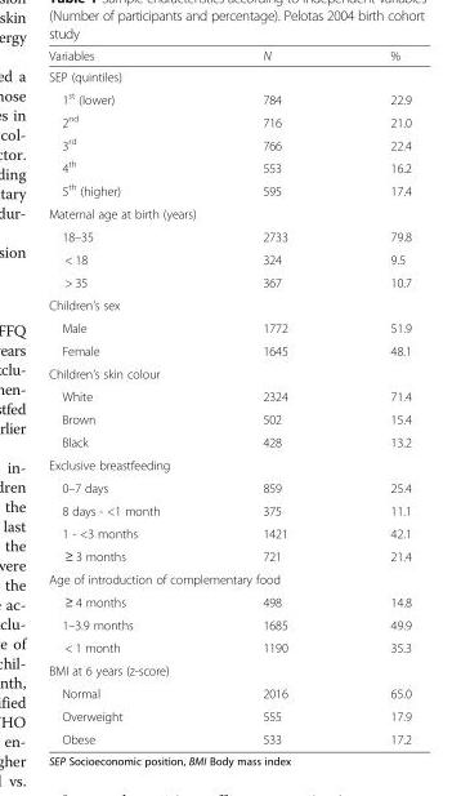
<table><thead><tr><td>Variables</td><td>N</td><td>%</td></tr></thead><tbody><tr><td colspan="3">SEP (quintiles)</td></tr><tr><td>1<sup>st</sup> (lower)</td><td>784</td><td>22.9</td></tr><tr><td>2<sup>nd</sup></td><td>716</td><td>21.0</td></tr><tr><td>3<sup>rd</sup></td><td>766</td><td>22.4</td></tr><tr><td>4<sup>th</sup></td><td>553</td><td>16.2</td></tr><tr><td>5<sup>th</sup> (higher)</td><td>595</td><td>17.4</td></tr><tr><td colspan="3">Maternal age at birth (years)</td></tr><tr><td>18–35</td><td>2733</td><td>79.8</td></tr><tr><td>&lt; 18</td><td>324</td><td>9.5</td></tr><tr><td>&gt; 35</td><td>367</td><td>10.7</td></tr><tr><td colspan="3">Children’s sex</td></tr><tr><td>Male</td><td>1772</td><td>51.9</td></tr><tr><td>Female</td><td>1645</td><td>48.1</td></tr><tr><td colspan="3">Children’s skin colour</td></tr><tr><td>White</td><td>2324</td><td>71.4</td></tr><tr><td>Brown</td><td>502</td><td>15.4</td></tr><tr><td>Black</td><td>428</td><td>13.2</td></tr><tr><td colspan="3">Exclusive breastfeeding</td></tr><tr><td>0–7 days</td><td>859</td><td>25.4</td></tr><tr><td>8 days - &lt;1 month</td><td>375</td><td>11.1</td></tr><tr><td>1 - &lt;3 months</td><td>1421</td><td>42.1</td></tr><tr><td>≥ 3 months</td><td>721</td><td>21.4</td></tr><tr><td colspan="3">Age of introduction of complementary food</td></tr><tr><td>≥ 4 months</td><td>498</td><td>14.8</td></tr><tr><td>1–3.9 months</td><td>1685</td><td>49.9</td></tr><tr><td>&lt; 1 month</td><td>1190</td><td>35.3</td></tr><tr><td colspan="3">BMI at 6 years (z-score)</td></tr><tr><td>Normal</td><td>2016</td><td>65.0</td></tr><tr><td>Overweight</td><td>555</td><td>17.9</td></tr><tr><td>Obese</td><td>533</td><td>17.2</td></tr></tbody></table>